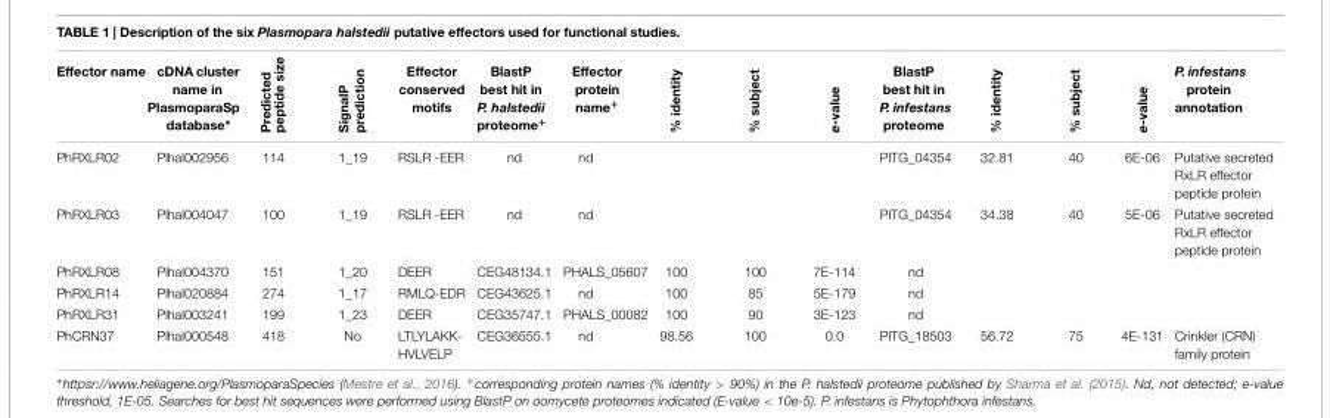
<table><thead><tr><td>Effector name</td><td>cDNA cluster name in PlasmoparaSp database∗</td><td>Predicted peptide size</td><td>SignalP prediction</td><td>Effector conserved motifs</td><td>BlastP best hit in P. halstedii proteome<sup>+</sup></td><td>Effector protein name<sup>+</sup></td><td>% identity</td><td>% subject</td><td>e-value</td><td>BlastP best hit in P. infestans proteome</td><td>% identity</td><td>% subject</td><td>e-value</td><td>P. infestans protein annotation</td></tr></thead><tbody><tr><td>PhRXLR02</td><td>Plhal002956</td><td>114</td><td>1_19</td><td>RSLR -EER</td><td>nd</td><td>nd</td><td></td><td></td><td></td><td>PITG_04354</td><td>32.81</td><td>40</td><td>6E-06</td><td>Putative secreted RxLR effector peptide protein</td></tr><tr><td>PhRXLR03</td><td>Plhal004047</td><td>100</td><td>1_19</td><td>RSLR -EER</td><td>nd</td><td>nd</td><td></td><td></td><td></td><td>PITG_04354</td><td>34.38</td><td>40</td><td>5E-06</td><td>Putative secreted RxLR effector peptide protein</td></tr><tr><td>PhRXLR08</td><td>Plhal004370</td><td>151</td><td>1_20</td><td>DEER</td><td>CEG48134.1</td><td>PHALS_05607</td><td>100</td><td>100</td><td>7E-114</td><td>nd</td><td></td><td></td><td></td><td></td></tr><tr><td>PhRXLR14</td><td>Plhal020884</td><td>274</td><td>1_17</td><td>RMLQ-EDR</td><td>CEG43625.1</td><td>nd</td><td>100</td><td>85</td><td>5E-179</td><td>nd</td><td></td><td></td><td></td><td></td></tr><tr><td>PhRXLR31</td><td>Plhal003241</td><td>199</td><td>1_23</td><td>DEER</td><td>CEG35747.1</td><td>PHALS_00082</td><td>100</td><td>90</td><td>3E-123</td><td>nd</td><td></td><td></td><td></td><td></td></tr><tr><td>PhCRN37</td><td>Plhal000548</td><td>418</td><td>No</td><td>LTLYLAKK- HVLVELP</td><td>CEG36555.1</td><td>nd</td><td>98.56</td><td>100</td><td>0.0</td><td>PITG_18503</td><td>56.72</td><td>75</td><td>4E-131</td><td>Crinkler (CRN) family protein</td></tr></tbody></table>